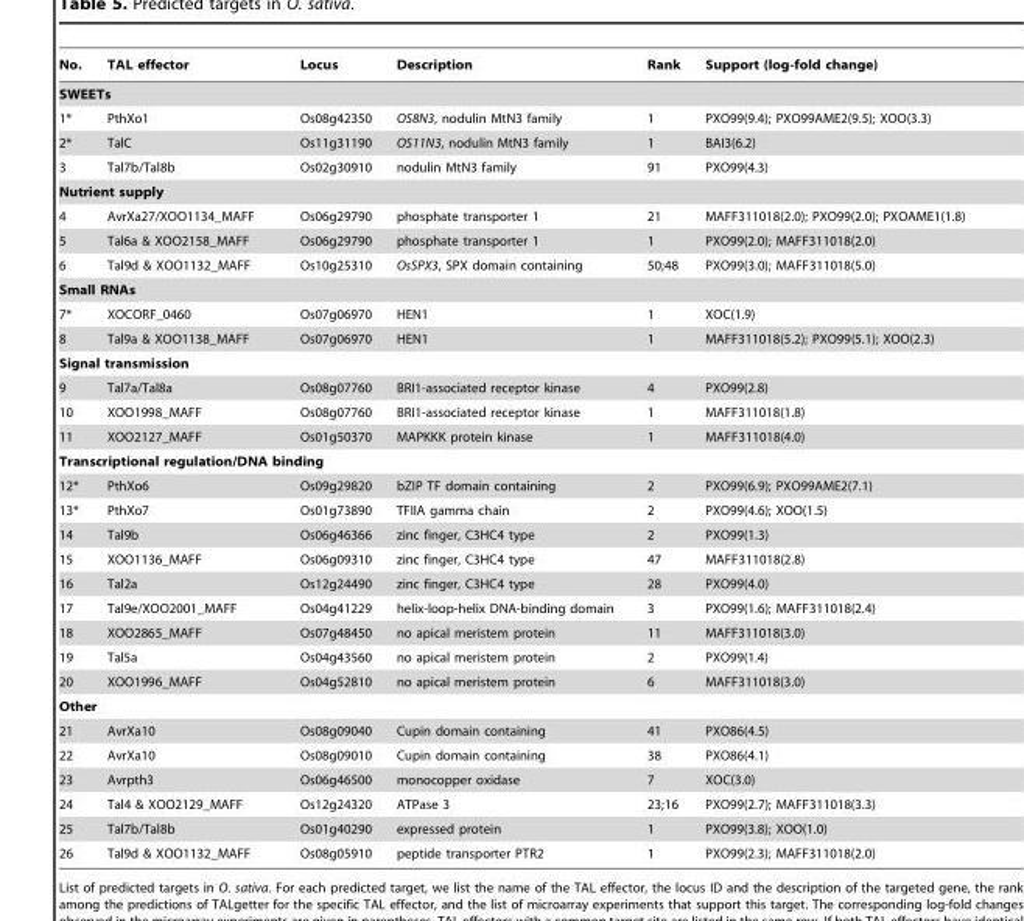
<table><thead><tr><td>No.</td><td>TAL effector</td><td>Locus</td><td>Description</td><td>Rank</td><td>Support (log-fold change)</td></tr></thead><tbody><tr><td colspan="6">SWEETs</td></tr><tr><td>1*</td><td>PthXo1</td><td>Os08g42350</td><td>OS8N3, nodulin MtN3 family</td><td>1</td><td>PXO99(9.4); PXO99AME2(9.5); XOO(3.3)</td></tr><tr><td>2*</td><td>TalC</td><td>Os11g31190</td><td>OS11N3, nodulin MtN3 family</td><td>1</td><td>BAI3(6.2)</td></tr><tr><td>3</td><td>Tal7b/Tal8b</td><td>Os02g30910</td><td>nodulin MtN3 family</td><td>91</td><td>PXO99(4.3)</td></tr><tr><td colspan="6">Nutrient supply</td></tr><tr><td>4</td><td>AvrXa27/XOO1134_MAFF</td><td>Os06g29790</td><td>phosphate transporter 1</td><td>21</td><td>MAFF311018(2.0); PXO99(2.0); PXOAME1(1.8)</td></tr><tr><td>5</td><td>Tal6a &amp; XOO2158_MAFF</td><td>Os06g29790</td><td>phosphate transporter 1</td><td>1</td><td>PXO99(2.0); MAFF311018(2.0)</td></tr><tr><td>6</td><td>Tal9d &amp; XOO1132_MAFF</td><td>Os10g25310</td><td>OsSPX3, SPX domain containing</td><td>50;48</td><td>PXO99(3.0); MAFF311018(5.0)</td></tr><tr><td colspan="6">Small RNAs</td></tr><tr><td>7*</td><td>XOCORF_0460</td><td>Os07g06970</td><td>HEN1</td><td>1</td><td>XOC(1.9)</td></tr><tr><td>8</td><td>Tal9a &amp; XOO1138_MAFF</td><td>Os07g06970</td><td>HEN1</td><td>1</td><td>MAFF311018(5.2); PXO99(5.1); XOO(2.3)</td></tr><tr><td colspan="6">Signal transmission</td></tr><tr><td>9</td><td>Tal7a/Tal8a</td><td>Os08g07760</td><td>BRI1-associated receptor kinase</td><td>4</td><td>PXO99(2.8)</td></tr><tr><td>10</td><td>XOO1998_MAFF</td><td>Os08g07760</td><td>BRI1-associated receptor kinase</td><td>1</td><td>MAFF311018(1.8)</td></tr><tr><td>11</td><td>XOO2127_MAFF</td><td>Os01g50370</td><td>MAPKKK protein kinase</td><td>1</td><td>MAFF311018(4.0)</td></tr><tr><td colspan="6">Transcriptional regulation/DNA binding</td></tr><tr><td>12*</td><td>PthXo6</td><td>Os09g29820</td><td>bZIP TF domain containing</td><td>2</td><td>PXO99(6.9); PXO99AME2(7.1)</td></tr><tr><td>13*</td><td>PthXo7</td><td>Os01g73890</td><td>TFIIA gamma chain</td><td>2</td><td>PXO99(4.6); XOO(1.5)</td></tr><tr><td>14</td><td>Tal9b</td><td>Os06g46366</td><td>zinc finger, C3HC4 type</td><td>2</td><td>PXO99(1.3)</td></tr><tr><td>15</td><td>XOO1136_MAFF</td><td>Os06g09310</td><td>zinc finger, C3HC4 type</td><td>47</td><td>MAFF311018(2.8)</td></tr><tr><td>16</td><td>Tal2a</td><td>Os12g24490</td><td>zinc finger, C3HC4 type</td><td>28</td><td>PXO99(4.0)</td></tr><tr><td>17</td><td>Tal9e/XOO2001_MAFF</td><td>Os04g41229</td><td>helix-loop-helix DNA-binding domain</td><td>3</td><td>PXO99(1.6); MAFF311018(2.4)</td></tr><tr><td>18</td><td>XOO2865_MAFF</td><td>Os07g48450</td><td>no apical meristem protein</td><td>11</td><td>MAFF311018(3.0)</td></tr><tr><td>19</td><td>Tal5a</td><td>Os04g43560</td><td>no apical meristem protein</td><td>2</td><td>PXO99(1.4)</td></tr><tr><td>20</td><td>XOO1996_MAFF</td><td>Os04g52810</td><td>no apical meristem protein</td><td>6</td><td>MAFF311018(3.0)</td></tr><tr><td colspan="6">Other</td></tr><tr><td>21</td><td>AvrXa10</td><td>Os08g09040</td><td>Cupin domain containing</td><td>41</td><td>PXO86(4.5)</td></tr><tr><td>22</td><td>AvrXa10</td><td>Os08g09010</td><td>Cupin domain containing</td><td>38</td><td>PXO86(4.1)</td></tr><tr><td>23</td><td>Avrpth3</td><td>Os06g46500</td><td>monocopper oxidase</td><td>7</td><td>XOC(3.0)</td></tr><tr><td>24</td><td>Tal4 &amp; XOO2129_MAFF</td><td>Os12g24320</td><td>ATPase 3</td><td>23;16</td><td>PXO99(2.7); MAFF311018(3.3)</td></tr><tr><td>25</td><td>Tal7b/Tal8b</td><td>Os01g40290</td><td>expressed protein</td><td>1</td><td>PXO99(3.8); XOO(1.0)</td></tr><tr><td>26</td><td>Tal9d &amp; XOO1132_MAFF</td><td>Os08g05910</td><td>peptide transporter PTR2</td><td>1</td><td>PXO99(2.3); MAFF311018(2.0)</td></tr></tbody></table>